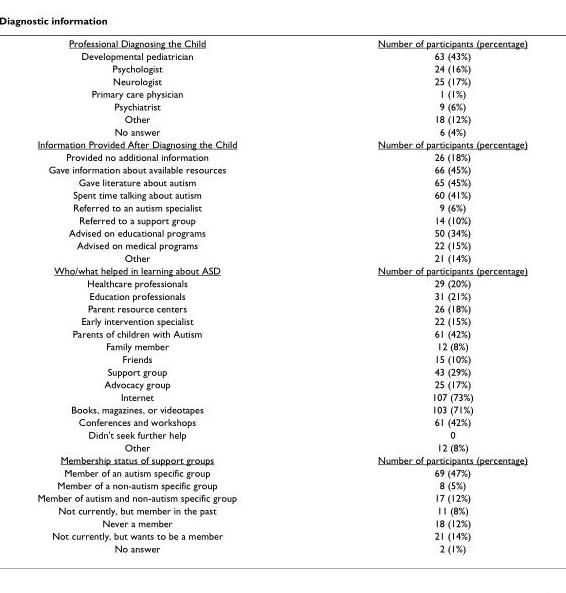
<table><tbody><tr><td>Professional Diagnosing the Child</td><td>Number of participants (percentage)</td></tr><tr><td>Developmental pediatrician</td><td>63 (43%)</td></tr><tr><td>Psychologist</td><td>24 (16%)</td></tr><tr><td>Neurologist</td><td>25 (17%)</td></tr><tr><td>Primary care physician</td><td>1 (1%)</td></tr><tr><td>Psychiatrist</td><td>9 (6%)</td></tr><tr><td>Other</td><td>18 (12%)</td></tr><tr><td>No answer</td><td>6 (4%)</td></tr><tr><td>Information Provided After Diagnosing the Child</td><td>Number of participants (percentage)</td></tr><tr><td>Provided no additional information</td><td>26 (18%)</td></tr><tr><td>Gave information about available resources</td><td>66 (45%)</td></tr><tr><td>Gave literature about autism</td><td>65 (45%)</td></tr><tr><td>Spent time talking about autism</td><td>60 (41%)</td></tr><tr><td>Referred to an autism specialist</td><td>9 (6%)</td></tr><tr><td>Referred to a support group</td><td>14 (10%)</td></tr><tr><td>Advised on educational programs</td><td>50 (34%)</td></tr><tr><td>Advised on medical programs</td><td>22 (15%)</td></tr><tr><td>Other</td><td>21 (14%)</td></tr><tr><td>Who/what helped in learning about ASD</td><td>Number of participants (percentage)</td></tr><tr><td>Healthcare professionals</td><td>29 (20%)</td></tr><tr><td>Education professionals</td><td>31 (21%)</td></tr><tr><td>Parent resource centers</td><td>26 (18%)</td></tr><tr><td>Early intervention specialist</td><td>22 (15%)</td></tr><tr><td>Parents of children with Autism</td><td>61 (42%)</td></tr><tr><td>Family member</td><td>12 (8%)</td></tr><tr><td>Friends</td><td>15 (10%)</td></tr><tr><td>Support group</td><td>43 (29%)</td></tr><tr><td>Advocacy group</td><td>25 (17%)</td></tr><tr><td>Internet</td><td>107 (73%)</td></tr><tr><td>Books, magazines, or videotapes</td><td>103 (71%)</td></tr><tr><td>Conferences and workshops</td><td>61 (42%)</td></tr><tr><td>Didn&#x27;t seek further help</td><td>0</td></tr><tr><td>Other</td><td>12 (8%)</td></tr><tr><td>Membership status of support groups</td><td>Number of participants (percentage)</td></tr><tr><td>Member of an autism specific group</td><td>69 (47%)</td></tr><tr><td>Member of a non-autism specific group</td><td>8 (5%)</td></tr><tr><td>Member of autism and non-autism specific group</td><td>17 (12%)</td></tr><tr><td>Not currently, but member in the past</td><td>11 (8%)</td></tr><tr><td>Never a member</td><td>18 (12%)</td></tr><tr><td>Not currently, but wants to be a member</td><td>21 (14%)</td></tr><tr><td>No answer</td><td>2 (1%)</td></tr></tbody></table>